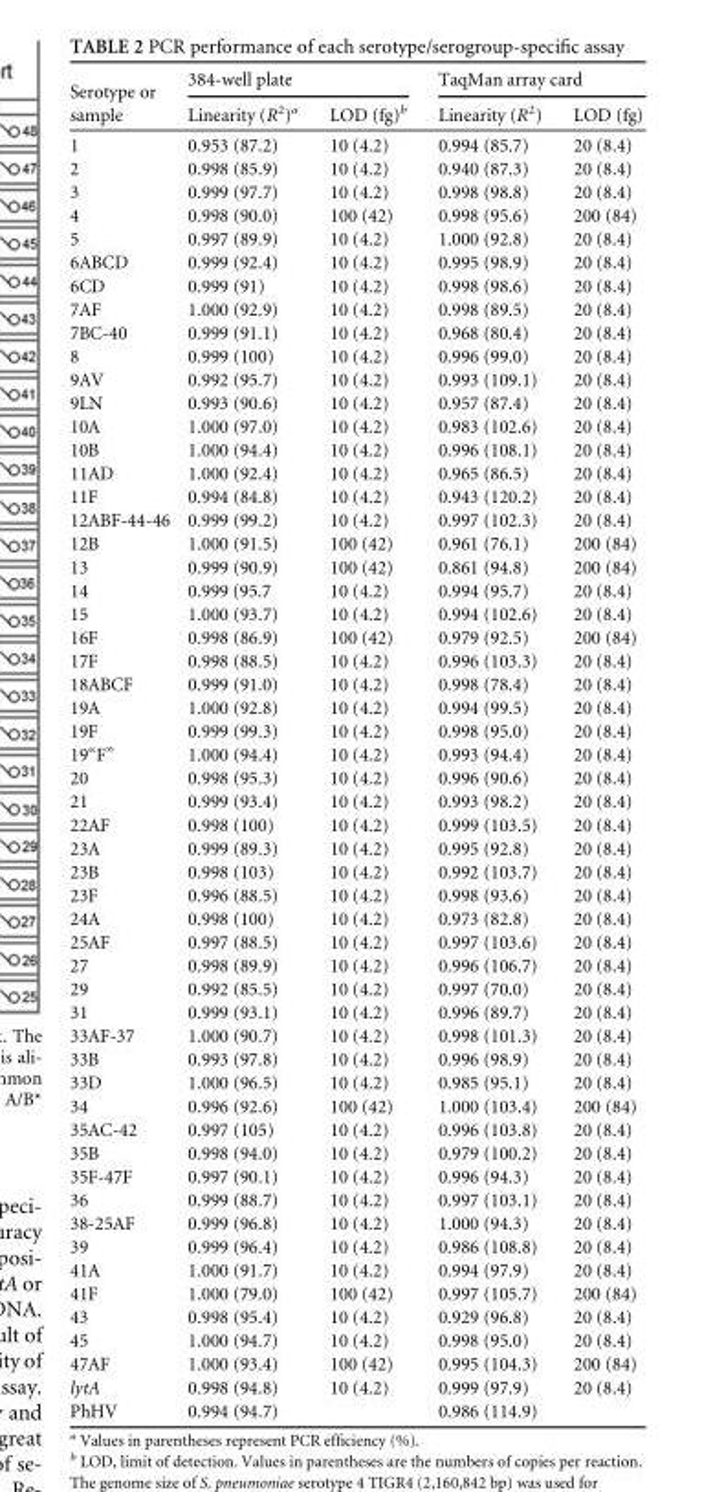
<table><thead><tr><td rowspan="2">Serotype or sample</td><td colspan="2">384-well plate</td><td colspan="2">TaqMan array card</td></tr><tr><td>Linearity (R<sup>2</sup>)<sup>a</sup></td><td>LOD (fg)<sup>b</sup></td><td>Linearity (R<sup>2</sup>)</td><td>LOD (fg)</td></tr></thead><tbody><tr><td>1</td><td>0.953 (87.2)</td><td>10 (4.2)</td><td>0.994 (85.7)</td><td>20 (8.4)</td></tr><tr><td>2</td><td>0.998 (85.9)</td><td>10 (4.2)</td><td>0.940 (87.3)</td><td>20 (8.4)</td></tr><tr><td>3</td><td>0.999 (97.7)</td><td>10 (4.2)</td><td>0.998 (98.8)</td><td>20 (8.4)</td></tr><tr><td>4</td><td>0.998 (90.0)</td><td>100 (42)</td><td>0.998 (95.6)</td><td>200 (84)</td></tr><tr><td>5</td><td>0.997 (89.9)</td><td>10 (4.2)</td><td>1.000 (92.8)</td><td>20 (8.4)</td></tr><tr><td>6ABCD</td><td>0.999 (92.4)</td><td>10 (4.2)</td><td>0.995 (98.9)</td><td>20 (8.4)</td></tr><tr><td>6CD</td><td>0.999 (91)</td><td>10 (4.2)</td><td>0.998 (98.6)</td><td>20 (8.4)</td></tr><tr><td>7AF</td><td>1.000 (92.9)</td><td>10 (4.2)</td><td>0.998 (89.5)</td><td>20 (8.4)</td></tr><tr><td>7BC-40</td><td>0.999 (91.1)</td><td>10 (4.2)</td><td>0.968 (80.4)</td><td>20 (8.4)</td></tr><tr><td>8</td><td>0.999 (100)</td><td>10 (4.2)</td><td>0.996 (99.0)</td><td>20 (8.4)</td></tr><tr><td>9AV</td><td>0.992 (95.7)</td><td>10 (4.2)</td><td>0.993 (109.1)</td><td>20 (8.4)</td></tr><tr><td>9LN</td><td>0.993 (90.6)</td><td>10 (4.2)</td><td>0.957 (87.4)</td><td>20 (8.4)</td></tr><tr><td>10A</td><td>1.000 (97.0)</td><td>10 (4.2)</td><td>0.983 (102.6)</td><td>20 (8.4)</td></tr><tr><td>10B</td><td>1.000 (94.4)</td><td>10 (4.2)</td><td>0.996 (108.1)</td><td>20 (8.4)</td></tr><tr><td>11AD</td><td>1.000 (92.4)</td><td>10 (4.2)</td><td>0.965 (86.5)</td><td>20 (8.4)</td></tr><tr><td>11F</td><td>0.994 (84.8)</td><td>10 (4.2)</td><td>0.943 (120.2)</td><td>20 (8.4)</td></tr><tr><td>12ABF-44-46</td><td>0.999 (99.2)</td><td>10 (4.2)</td><td>0.997 (102.3)</td><td>20 (8.4)</td></tr><tr><td>12B</td><td>1.000 (91.5)</td><td>100 (42)</td><td>0.961 (76.1)</td><td>200 (84)</td></tr><tr><td>13</td><td>0.999 (90.9)</td><td>100 (42)</td><td>0.861 (94.8)</td><td>200 (84)</td></tr><tr><td>14</td><td>0.999 (95.7</td><td>10 (4.2)</td><td>0.994 (95.7)</td><td>20 (8.4)</td></tr><tr><td>15</td><td>1.000 (93.7)</td><td>10 (4.2)</td><td>0.994 (102.6)</td><td>20 (8.4)</td></tr><tr><td>16F</td><td>0.998 (86.9)</td><td>100 (42)</td><td>0.979 (92.5)</td><td>200 (84)</td></tr><tr><td>17F</td><td>0.998 (88.5)</td><td>10 (4.2)</td><td>0.996 (103.3)</td><td>20 (8.4)</td></tr><tr><td>18ABCF</td><td>0.999 (91.0)</td><td>10 (4.2)</td><td>0.998 (78.4)</td><td>20 (8.4)</td></tr><tr><td>19A</td><td>1.000 (92.8)</td><td>10 (4.2)</td><td>0.994 (99.5)</td><td>20 (8.4)</td></tr><tr><td>19F</td><td>0.999 (99.3)</td><td>10 (4.2)</td><td>0.998 (95.0)</td><td>20 (8.4)</td></tr><tr><td>19“F”</td><td>1.000 (94.4)</td><td>10 (4.2)</td><td>0.993 (94.4)</td><td>20 (8.4)</td></tr><tr><td>20</td><td>0.998 (95.3)</td><td>10 (4.2)</td><td>0.996 (90.6)</td><td>20 (8.4)</td></tr><tr><td>21</td><td>0.999 (93.4)</td><td>10 (4.2)</td><td>0.993 (98.2)</td><td>20 (8.4)</td></tr><tr><td>22AF</td><td>0.998 (100)</td><td>10 (4.2)</td><td>0.999 (103.5)</td><td>20 (8.4)</td></tr><tr><td>23A</td><td>0.999 (89.3)</td><td>10 (4.2)</td><td>0.995 (92.8)</td><td>20 (8.4)</td></tr><tr><td>23B</td><td>0.998 (103)</td><td>10 (4.2)</td><td>0.992 (103.7)</td><td>20 (8.4)</td></tr><tr><td>23F</td><td>0.996 (88.5)</td><td>10 (4.2)</td><td>0.998 (93.6)</td><td>20 (8.4)</td></tr><tr><td>24A</td><td>0.998 (100)</td><td>10 (4.2)</td><td>0.973 (82.8)</td><td>20 (8.4)</td></tr><tr><td>25AF</td><td>0.997 (88.5)</td><td>10 (4.2)</td><td>0.997 (103.6)</td><td>20 (8.4)</td></tr><tr><td>27</td><td>0.998 (89.9)</td><td>10 (4.2)</td><td>0.996 (106.7)</td><td>20 (8.4)</td></tr><tr><td>29</td><td>0.992 (85.5)</td><td>10 (4.2)</td><td>0.997 (70.0)</td><td>20 (8.4)</td></tr><tr><td>31</td><td>0.999 (93.1)</td><td>10 (4.2)</td><td>0.996 (89.7)</td><td>20 (8.4)</td></tr><tr><td>33AF-37</td><td>1.000 (90.7)</td><td>10 (4.2)</td><td>0.998 (101.3)</td><td>20 (8.4)</td></tr><tr><td>33B</td><td>0.993 (97.8)</td><td>10 (4.2)</td><td>0.996 (98.9)</td><td>20 (8.4)</td></tr><tr><td>33D</td><td>1.000 (96.5)</td><td>10 (4.2)</td><td>0.985 (95.1)</td><td>20 (8.4)</td></tr><tr><td>34</td><td>0.996 (92.6)</td><td>100 (42)</td><td>1.000 (103.4)</td><td>200 (84)</td></tr><tr><td>35AC-42</td><td>0.997 (105)</td><td>10 (4.2)</td><td>0.996 (103.8)</td><td>20 (8.4)</td></tr><tr><td>35B</td><td>0.998 (94.0)</td><td>10 (4.2)</td><td>0.979 (100.2)</td><td>20 (8.4)</td></tr><tr><td>35F-47F</td><td>0.997 (90.1)</td><td>10 (4.2)</td><td>0.996 (94.3)</td><td>20 (8.4)</td></tr><tr><td>36</td><td>0.999 (88.7)</td><td>10 (4.2)</td><td>0.997 (103.1)</td><td>20 (8.4)</td></tr><tr><td>38-25AF</td><td>0.999 (96.8)</td><td>10 (4.2)</td><td>1.000 (94.3)</td><td>20 (8.4)</td></tr><tr><td>39</td><td>0.999 (96.4)</td><td>10 (4.2)</td><td>0.986 (108.8)</td><td>20 (8.4)</td></tr><tr><td>41A</td><td>1.000 (91.7)</td><td>10 (4.2)</td><td>0.994 (97.9)</td><td>20 (8.4)</td></tr><tr><td>41F</td><td>1.000 (79.0)</td><td>100 (42)</td><td>0.997 (105.7)</td><td>200 (84)</td></tr><tr><td>43</td><td>0.998 (95.4)</td><td>10 (4.2)</td><td>0.929 (96.8)</td><td>20 (8.4)</td></tr><tr><td>45</td><td>1.000 (94.7)</td><td>10 (4.2)</td><td>0.998 (95.0)</td><td>20 (8.4)</td></tr><tr><td>47AF</td><td>1.000 (93.4)</td><td>100 (42)</td><td>0.995 (104.3)</td><td>200 (84)</td></tr><tr><td>lytA</td><td>0.998 (94.8)</td><td>10 (4.2)</td><td>0.999 (97.9)</td><td>20 (8.4)</td></tr><tr><td>PhHV</td><td>0.994 (94.7)</td><td></td><td>0.986 (114.9)</td><td></td></tr></tbody></table>